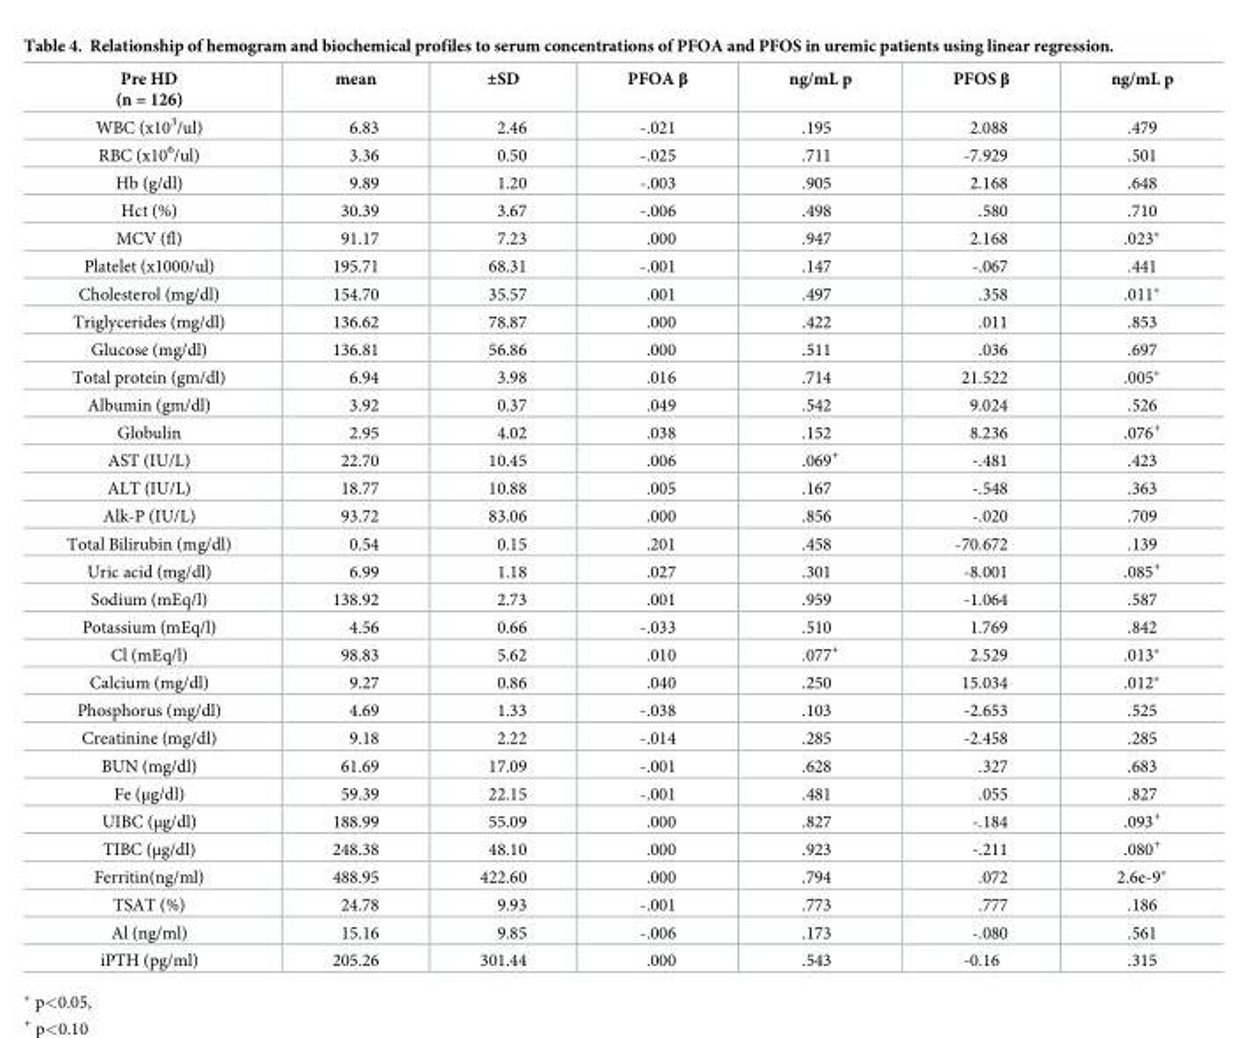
<table><thead><tr><td>Pre HD (n = 126)</td><td>mean</td><td>±SD</td><td>PFOA β</td><td>ng/mL p</td><td>PFOS β</td><td>ng/mL p</td></tr></thead><tbody><tr><td>WBC (x10<sup>3</sup>/ul)</td><td>6.83</td><td>2.46</td><td>-.021</td><td>.195</td><td>2.088</td><td>.479</td></tr><tr><td>RBC (x10<sup>6</sup>/ul)</td><td>3.36</td><td>0.50</td><td>-.025</td><td>.711</td><td>-7.929</td><td>.501</td></tr><tr><td>Hb (g/dl)</td><td>9.89</td><td>1.20</td><td>-.003</td><td>.905</td><td>2.168</td><td>.648</td></tr><tr><td>Hct (%)</td><td>30.39</td><td>3.67</td><td>-.006</td><td>.498</td><td>.580</td><td>.710</td></tr><tr><td>MCV (fl)</td><td>91.17</td><td>7.23</td><td>.000</td><td>.947</td><td>2.168</td><td>.023*</td></tr><tr><td>Platelet (x1000/ul)</td><td>195.71</td><td>68.31</td><td>-.001</td><td>.147</td><td>-.067</td><td>.441</td></tr><tr><td>Cholesterol (mg/dl)</td><td>154.70</td><td>35.57</td><td>.001</td><td>.497</td><td>.358</td><td>.011*</td></tr><tr><td>Triglycerides (mg/dl)</td><td>136.62</td><td>78.87</td><td>.000</td><td>.422</td><td>.011</td><td>.853</td></tr><tr><td>Glucose (mg/dl)</td><td>136.81</td><td>56.86</td><td>.000</td><td>.511</td><td>.036</td><td>.697</td></tr><tr><td>Total protein (gm/dl)</td><td>6.94</td><td>3.98</td><td>.016</td><td>.714</td><td>21.522</td><td>.005*</td></tr><tr><td>Albumin (gm/dl)</td><td>3.92</td><td>0.37</td><td>.049</td><td>.542</td><td>9.024</td><td>.526</td></tr><tr><td>Globulin</td><td>2.95</td><td>4.02</td><td>.038</td><td>.152</td><td>8.236</td><td>.076<sup>+</sup></td></tr><tr><td>AST (IU/L)</td><td>22.70</td><td>10.45</td><td>.006</td><td>.069<sup>+</sup></td><td>-.481</td><td>.423</td></tr><tr><td>ALT (IU/L)</td><td>18.77</td><td>10.88</td><td>.005</td><td>.167</td><td>-.548</td><td>.363</td></tr><tr><td>Alk-P (IU/L)</td><td>93.72</td><td>83.06</td><td>.000</td><td>.856</td><td>-.020</td><td>.709</td></tr><tr><td>Total Bilirubin (mg/dl)</td><td>0.54</td><td>0.15</td><td>.201</td><td>.458</td><td>-70.672</td><td>.139</td></tr><tr><td>Uric acid (mg/dl)</td><td>6.99</td><td>1.18</td><td>.027</td><td>.301</td><td>-8.001</td><td>.085<sup>+</sup></td></tr><tr><td>Sodium (mEq/l)</td><td>138.92</td><td>2.73</td><td>.001</td><td>.959</td><td>-1.064</td><td>.587</td></tr><tr><td>Potassium (mEq/l)</td><td>4.56</td><td>0.66</td><td>-.033</td><td>.510</td><td>1.769</td><td>.842</td></tr><tr><td>Cl (mEq/l)</td><td>98.83</td><td>5.62</td><td>.010</td><td>.077<sup>+</sup></td><td>2.529</td><td>.013*</td></tr><tr><td>Calcium (mg/dl)</td><td>9.27</td><td>0.86</td><td>.040</td><td>.250</td><td>15.034</td><td>.012*</td></tr><tr><td>Phosphorus (mg/dl)</td><td>4.69</td><td>1.33</td><td>-.038</td><td>.103</td><td>-2.653</td><td>.525</td></tr><tr><td>Creatinine (mg/dl)</td><td>9.18</td><td>2.22</td><td>-.014</td><td>.285</td><td>-2.458</td><td>.285</td></tr><tr><td>BUN (mg/dl)</td><td>61.69</td><td>17.09</td><td>-.001</td><td>.628</td><td>.327</td><td>.683</td></tr><tr><td>Fe (μg/dl)</td><td>59.39</td><td>22.15</td><td>-.001</td><td>.481</td><td>.055</td><td>.827</td></tr><tr><td>UIBC (μg/dl)</td><td>188.99</td><td>55.09</td><td>.000</td><td>.827</td><td>-.184</td><td>.093<sup>+</sup></td></tr><tr><td>TIBC (μg/dl)</td><td>248.38</td><td>48.10</td><td>.000</td><td>.923</td><td>-.211</td><td>.080<sup>+</sup></td></tr><tr><td>Ferritin(ng/ml)</td><td>488.95</td><td>422.60</td><td>.000</td><td>.794</td><td>.072</td><td>2.6e-9*</td></tr><tr><td>TSAT (%)</td><td>24.78</td><td>9.93</td><td>-.001</td><td>.773</td><td>.777</td><td>.186</td></tr><tr><td>Al (ng/ml)</td><td>15.16</td><td>9.85</td><td>-.006</td><td>.173</td><td>-.080</td><td>.561</td></tr><tr><td>iPTH (pg/ml)</td><td>205.26</td><td>301.44</td><td>.000</td><td>.543</td><td>-0.16</td><td>.315</td></tr></tbody></table>